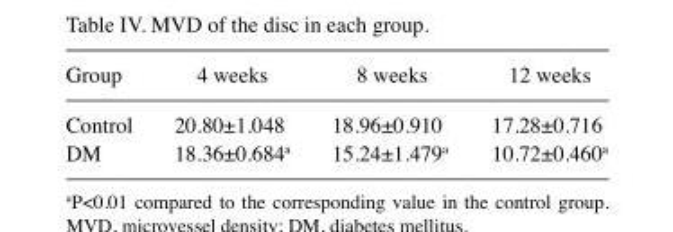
<table><thead><tr><td>Group</td><td>4 weeks</td><td>8 weeks</td><td>12 weeks</td></tr></thead><tbody><tr><td>Control</td><td>20.80±1.048</td><td>18.96±0.910</td><td>17.28±0.716</td></tr><tr><td>DM</td><td>18.36±0.684a</td><td>15.24±1.479a</td><td>10.72±0.460a</td></tr></tbody></table>